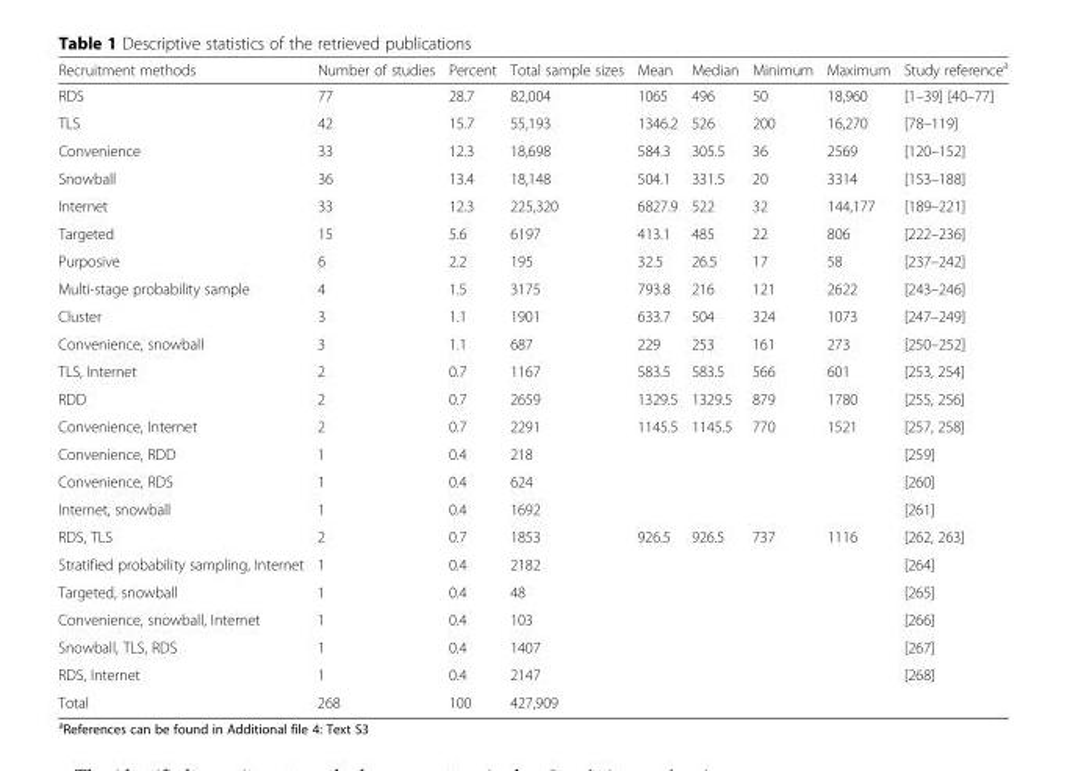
<table><thead><tr><td>Recruitment methods</td><td>Number of studies</td><td>Percent</td><td>Total sample sizes</td><td>Mean</td><td>Median</td><td>Minimum</td><td>Maximum</td><td>Study reference<sup>a</sup></td></tr></thead><tbody><tr><td>RDS</td><td>77</td><td>28.7</td><td>82,004</td><td>1065</td><td>496</td><td>50</td><td>18,960</td><td>[1–39] [40–77]</td></tr><tr><td>TLS</td><td>42</td><td>15.7</td><td>55,193</td><td>1346.2</td><td>526</td><td>200</td><td>16,270</td><td>[78–119]</td></tr><tr><td>Convenience</td><td>33</td><td>12.3</td><td>18,698</td><td>584.3</td><td>305.5</td><td>36</td><td>2569</td><td>[120–152]</td></tr><tr><td>Snowball</td><td>36</td><td>13.4</td><td>18,148</td><td>504.1</td><td>331.5</td><td>20</td><td>3314</td><td>[153–188]</td></tr><tr><td>Internet</td><td>33</td><td>12.3</td><td>225,320</td><td>6827.9</td><td>522</td><td>32</td><td>144,177</td><td>[189–221]</td></tr><tr><td>Targeted</td><td>15</td><td>5.6</td><td>6197</td><td>413.1</td><td>485</td><td>22</td><td>806</td><td>[222–236]</td></tr><tr><td>Purposive</td><td>6</td><td>2.2</td><td>195</td><td>32.5</td><td>26.5</td><td>17</td><td>58</td><td>[237–242]</td></tr><tr><td>Multi-stage probability sample</td><td>4</td><td>1.5</td><td>3175</td><td>793.8</td><td>216</td><td>121</td><td>2622</td><td>[243–246]</td></tr><tr><td>Cluster</td><td>3</td><td>1.1</td><td>1901</td><td>633.7</td><td>504</td><td>324</td><td>1073</td><td>[247–249]</td></tr><tr><td>Convenience, snowball</td><td>3</td><td>1.1</td><td>687</td><td>229</td><td>253</td><td>161</td><td>273</td><td>[250–252]</td></tr><tr><td>TLS, Internet</td><td>2</td><td>0.7</td><td>1167</td><td>583.5</td><td>583.5</td><td>566</td><td>601</td><td>[253, 254]</td></tr><tr><td>RDD</td><td>2</td><td>0.7</td><td>2659</td><td>1329.5</td><td>1329.5</td><td>879</td><td>1780</td><td>[255, 256]</td></tr><tr><td>Convenience, Internet</td><td>2</td><td>0.7</td><td>2291</td><td>1145.5</td><td>1145.5</td><td>770</td><td>1521</td><td>[257, 258]</td></tr><tr><td>Convenience, RDD</td><td>1</td><td>0.4</td><td>218</td><td></td><td></td><td></td><td></td><td>[259]</td></tr><tr><td>Convenience, RDS</td><td>1</td><td>0.4</td><td>624</td><td></td><td></td><td></td><td></td><td>[260]</td></tr><tr><td>Internet, snowball</td><td>1</td><td>0.4</td><td>1692</td><td></td><td></td><td></td><td></td><td>[261]</td></tr><tr><td>RDS, TLS</td><td>2</td><td>0.7</td><td>1853</td><td>926.5</td><td>926.5</td><td>737</td><td>1116</td><td>[262, 263]</td></tr><tr><td>Stratified probability sampling, Internet</td><td>1</td><td>0.4</td><td>2182</td><td></td><td></td><td></td><td></td><td>[264]</td></tr><tr><td>Targeted, snowball</td><td>1</td><td>0.4</td><td>48</td><td></td><td></td><td></td><td></td><td>[265]</td></tr><tr><td>Convenience, snowball, Internet</td><td>1</td><td>0.4</td><td>103</td><td></td><td></td><td></td><td></td><td>[266]</td></tr><tr><td>Snowball, TLS, RDS</td><td>1</td><td>0.4</td><td>1407</td><td></td><td></td><td></td><td></td><td>[267]</td></tr><tr><td>RDS, Internet</td><td>1</td><td>0.4</td><td>2147</td><td></td><td></td><td></td><td></td><td>[268]</td></tr><tr><td>Total</td><td>268</td><td>100</td><td>427,909</td><td></td><td></td><td></td><td></td><td></td></tr></tbody></table>